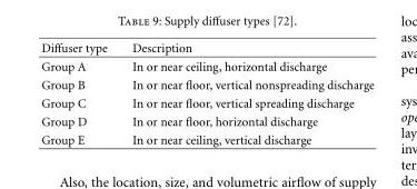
<table><thead><tr><td>Diffuser type</td><td>Description</td></tr></thead><tbody><tr><td>Group A</td><td>In or near ceiling, horizontal discharge</td></tr><tr><td>Group B</td><td>In or near floor, vertical nonspreading discharge</td></tr><tr><td>Group C</td><td>In or near floor, vertical spreading discharge</td></tr><tr><td>Group D</td><td>In or near floor, horizontal discharge</td></tr><tr><td>Group E</td><td>In or near ceiling, vertical discharge</td></tr></tbody></table>